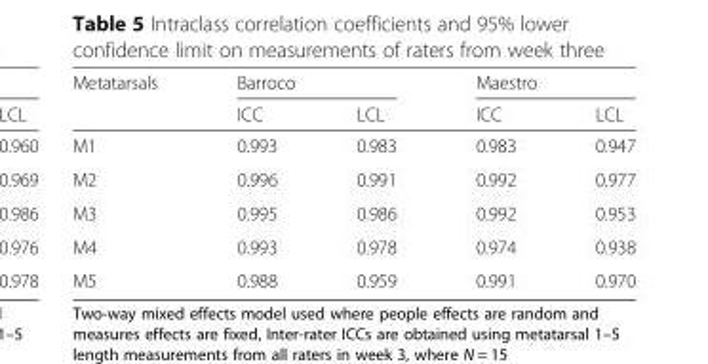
<table><thead><tr><td rowspan="2">Metatarsals</td><td colspan="2">Barroco</td><td colspan="2">Maestro</td></tr><tr><td>ICC</td><td>LCL</td><td>ICC</td><td>LCL</td></tr></thead><tbody><tr><td>M1</td><td>0.993</td><td>0.983</td><td>0.983</td><td>0.947</td></tr><tr><td>M2</td><td>0.996</td><td>0.991</td><td>0.992</td><td>0.977</td></tr><tr><td>M3</td><td>0.995</td><td>0.986</td><td>0.992</td><td>0.953</td></tr><tr><td>M4</td><td>0.993</td><td>0.978</td><td>0.974</td><td>0.938</td></tr><tr><td>M5</td><td>0.988</td><td>0.959</td><td>0.991</td><td>0.970</td></tr></tbody></table>